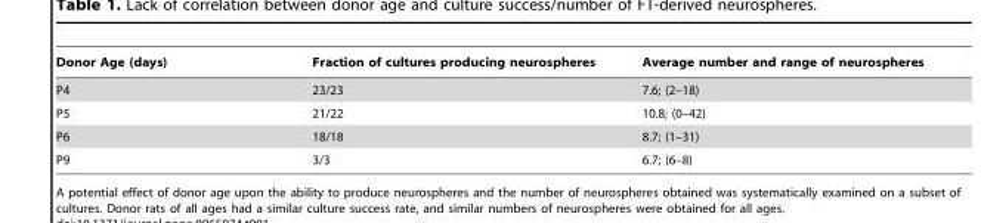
<table><thead><tr><td>Donor Age (days)</td><td>Fraction of cultures producing neurospheres</td><td>Average number and range of neurospheres</td></tr></thead><tbody><tr><td>P4</td><td>23/23</td><td>7.6; (2–18)</td></tr><tr><td>P5</td><td>21/22</td><td>10.8; (0–42)</td></tr><tr><td>P6</td><td>18/18</td><td>8.7; (1–31)</td></tr><tr><td>P9</td><td>3/3</td><td>6.7; (6–8)</td></tr></tbody></table>